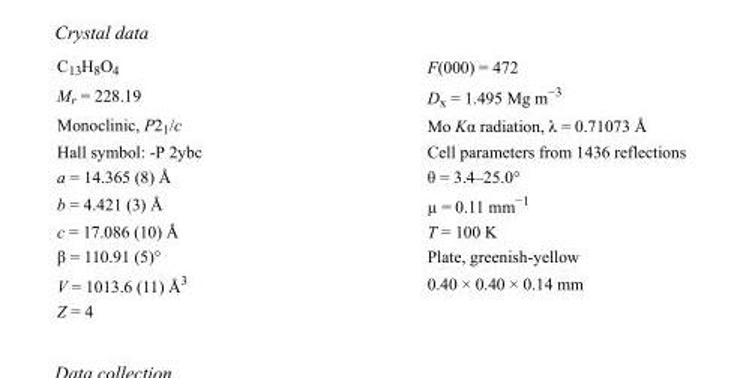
<table><tbody><tr><td>C<sub>13</sub>H<sub>8</sub>O<sub>4</sub></td><td>F(000) = 472</td></tr><tr><td>M<sub>r</sub> = 228.19</td><td>D<sub>x</sub> = 1.495 Mg m<sup>−3</sup></td></tr><tr><td>Monoclinic, P2<sub>1</sub>/c</td><td>Mo Kα radiation, λ = 0.71073 Å</td></tr><tr><td>Hall symbol: -P 2ybc</td><td>Cell parameters from 1436 reflections</td></tr><tr><td>a = 14.365 (8) Å</td><td>θ = 3.4–25.0°</td></tr><tr><td>b = 4.421 (3) Å</td><td>µ = 0.11 mm<sup>−1</sup></td></tr><tr><td>c = 17.086 (10) Å</td><td>T = 100 K</td></tr><tr><td>β = 110.91 (5)°</td><td>Plate, greenish-yellow</td></tr><tr><td>V = 1013.6 (11) Å<sup>3</sup></td><td>0.40 × 0.40 × 0.14 mm</td></tr><tr><td>Z = 4</td><td></td></tr></tbody></table>